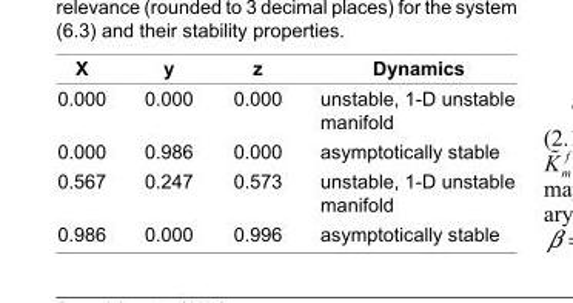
<table><thead><tr><td>X</td><td>y</td><td>z</td><td>Dynamics</td></tr></thead><tbody><tr><td>0.000</td><td>0.000</td><td>0.000</td><td>unstable, 1-D unstable manifold</td></tr><tr><td>0.000</td><td>0.986</td><td>0.000</td><td>asymptotically stable</td></tr><tr><td>0.567</td><td>0.247</td><td>0.573</td><td>unstable, 1-D unstable manifold</td></tr><tr><td>0.986</td><td>0.000</td><td>0.996</td><td>asymptotically stable</td></tr></tbody></table>